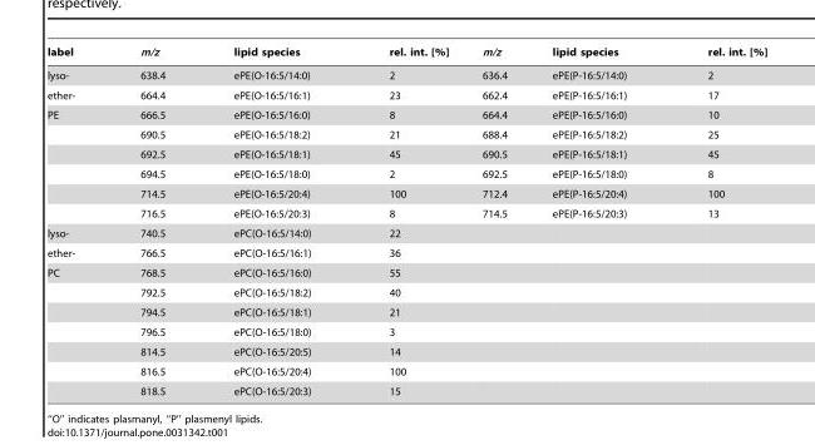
<table><thead><tr><td>label</td><td>m/z</td><td>lipid species</td><td>rel. int. [%]</td><td>m/z</td><td>lipid species</td><td>rel. int. [%]</td></tr></thead><tbody><tr><td>lyso-</td><td>638.4</td><td>ePE(O-16:5/14:0)</td><td>2</td><td>636.4</td><td>ePE(P-16:5/14:0)</td><td>2</td></tr><tr><td>ether-</td><td>664.4</td><td>ePE(O-16:5/16:1)</td><td>23</td><td>662.4</td><td>ePE(P-16:5/16:1)</td><td>17</td></tr><tr><td rowspan="6">PE</td><td>666.5</td><td>ePE(O-16:5/16:0)</td><td>8</td><td>664.4</td><td>ePE(P-16:5/16:0)</td><td>10</td></tr><tr><td>690.5</td><td>ePE(O-16:5/18:2)</td><td>21</td><td>688.4</td><td>ePE(P-16:5/18:2)</td><td>25</td></tr><tr><td>692.5</td><td>ePE(O-16:5/18:1)</td><td>45</td><td>690.5</td><td>ePE(P-16:5/18:1)</td><td>45</td></tr><tr><td>694.5</td><td>ePE(O-16:5/18:0)</td><td>2</td><td>692.5</td><td>ePE(P-16:5/18:0)</td><td>8</td></tr><tr><td>714.5</td><td>ePE(O-16:5/20:4)</td><td>100</td><td>712.4</td><td>ePE(P-16:5/20:4)</td><td>100</td></tr><tr><td>716.5</td><td>ePE(O-16:5/20:3)</td><td>8</td><td>714.5</td><td>ePE(P-16:5/20:3)</td><td>13</td></tr><tr><td>lyso-</td><td>740.5</td><td>ePC(O-16:5/14:0)</td><td>22</td><td></td><td></td><td></td></tr><tr><td>ether-</td><td>766.5</td><td>ePC(O-16:5/16:1)</td><td>36</td><td></td><td></td><td></td></tr><tr><td rowspan="7">PC</td><td>768.5</td><td>ePC(O-16:5/16:0)</td><td>55</td><td></td><td></td><td></td></tr><tr><td>792.5</td><td>ePC(O-16:5/18:2)</td><td>40</td><td></td><td></td><td></td></tr><tr><td>794.5</td><td>ePC(O-16:5/18:1)</td><td>21</td><td></td><td></td><td></td></tr><tr><td>796.5</td><td>ePC(O-16:5/18:0)</td><td>3</td><td></td><td></td><td></td></tr><tr><td>814.5</td><td>ePC(O-16:5/20:5)</td><td>14</td><td></td><td></td><td></td></tr><tr><td>816.5</td><td>ePC(O-16:5/20:4)</td><td>100</td><td></td><td></td><td></td></tr><tr><td>818.5</td><td>ePC(O-16:5/20:3)</td><td>15</td><td></td><td></td><td></td></tr></tbody></table>